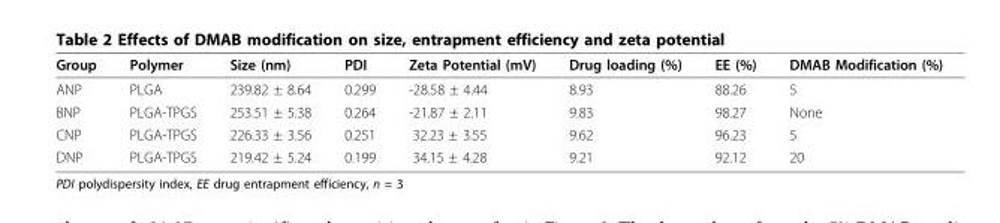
<table><thead><tr><td>Group</td><td>Polymer</td><td>Size (nm)</td><td>PDI</td><td>Zeta Potential (mV)</td><td>Drug loading (%)</td><td>EE (%)</td><td>DMAB Modification (%)</td></tr></thead><tbody><tr><td>ANP</td><td>PLGA</td><td>239.82 ± 8.64</td><td>0.299</td><td>-28.58 ± 4.44</td><td>8.93</td><td>88.26</td><td>5</td></tr><tr><td>BNP</td><td>PLGA-TPGS</td><td>253.51 ± 5.38</td><td>0.264</td><td>-21.87 ± 2.11</td><td>9.83</td><td>98.27</td><td>None</td></tr><tr><td>CNP</td><td>PLGA-TPGS</td><td>226.33 ± 3.56</td><td>0.251</td><td>32.23 ± 3.55</td><td>9.62</td><td>96.23</td><td>5</td></tr><tr><td>DNP</td><td>PLGA-TPGS</td><td>219.42 ± 5.24</td><td>0.199</td><td>34.15 ± 4.28</td><td>9.21</td><td>92.12</td><td>20</td></tr></tbody></table>